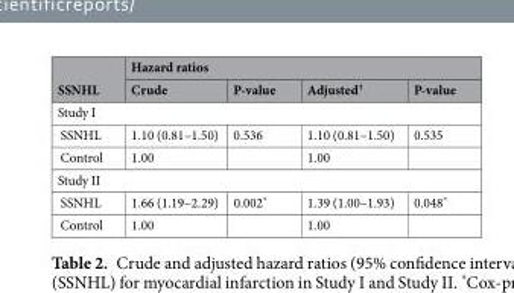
<table><thead><tr><td rowspan="2">SSNHL</td><td colspan="4">Hazard ratios</td></tr><tr><td>Crude</td><td>P-value</td><td>Adjusted<sup>†</sup></td><td>P-value</td></tr></thead><tbody><tr><td colspan="5">Study I</td></tr><tr><td>SSNHL</td><td>1.10 (0.81–1.50)</td><td>0.536</td><td>1.10 (0.81–1.50)</td><td>0.535</td></tr><tr><td>Control</td><td>1.00</td><td></td><td>1.00</td><td></td></tr><tr><td colspan="5">Study II</td></tr><tr><td>SSNHL</td><td>1.66 (1.19–2.29)</td><td>0.002*</td><td>1.39 (1.00–1.93)</td><td>0.048*</td></tr><tr><td>Control</td><td>1.00</td><td></td><td>1.00</td><td></td></tr></tbody></table>